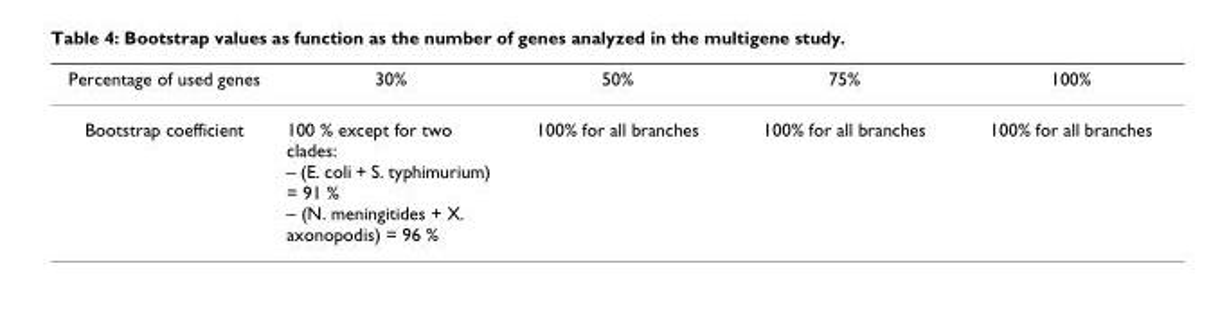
<table><thead><tr><td>Percentage of used genes</td><td>30%</td><td>50%</td><td>75%</td><td>100%</td></tr></thead><tbody><tr><td>Bootstrap coefficient</td><td>100 % except for two clades: – (E. coli + S. typhimurium) = 91 % – (N. meningitides + X. axonopodis) = 96 %</td><td>100% for all branches</td><td>100% for all branches</td><td>100% for all branches</td></tr></tbody></table>